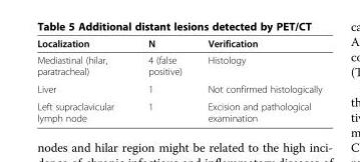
<table><thead><tr><td>Localization</td><td>N</td><td>Verification</td></tr></thead><tbody><tr><td>Mediastinal (hilar, paratracheal)</td><td>4 (false positive)</td><td>Histology</td></tr><tr><td>Liver</td><td>1</td><td>Not confirmed histologically</td></tr><tr><td>Left supraclavicular lymph node</td><td>1</td><td>Excision and pathological examination</td></tr></tbody></table>